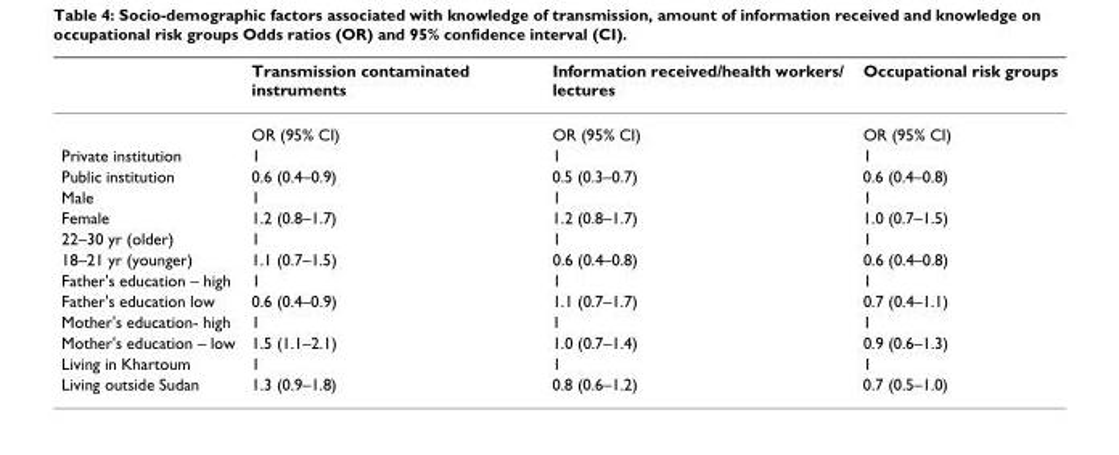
<table><thead><tr><td></td><td>Transmission contaminated instruments</td><td>Information received/health workers/ lectures</td><td>Occupational risk groups</td></tr></thead><tbody><tr><td></td><td>OR (95% CI)</td><td>OR (95% CI)</td><td>OR (95% CI)</td></tr><tr><td>Private institution</td><td>1</td><td>1</td><td>1</td></tr><tr><td>Public institution</td><td>0.6 (0.4–0.9)</td><td>0.5 (0.3–0.7)</td><td>0.6 (0.4–0.8)</td></tr><tr><td>Male</td><td>1</td><td>1</td><td>1</td></tr><tr><td>Female</td><td>1.2 (0.8–1.7)</td><td>1.2 (0.8–1.7)</td><td>1.0 (0.7–1.5)</td></tr><tr><td>22–30 yr (older)</td><td>1</td><td>1</td><td>1</td></tr><tr><td>18–21 yr (younger)</td><td>1.1 (0.7–1.5)</td><td>0.6 (0.4–0.8)</td><td>0.6 (0.4–0.8)</td></tr><tr><td>Father&#x27;s education – high</td><td>1</td><td>1</td><td>1</td></tr><tr><td>Father&#x27;s education low</td><td>0.6 (0.4–0.9)</td><td>1.1 (0.7–1.7)</td><td>0.7 (0.4–1.1)</td></tr><tr><td>Mother&#x27;s education- high</td><td>1</td><td>1</td><td>1</td></tr><tr><td>Mother&#x27;s education – low</td><td>1.5 (1.1–2.1)</td><td>1.0 (0.7–1.4)</td><td>0.9 (0.6–1.3)</td></tr><tr><td>Living in Khartoum</td><td>1</td><td>1</td><td>1</td></tr><tr><td>Living outside Sudan</td><td>1.3 (0.9–1.8)</td><td>0.8 (0.6–1.2)</td><td>0.7 (0.5–1.0)</td></tr></tbody></table>